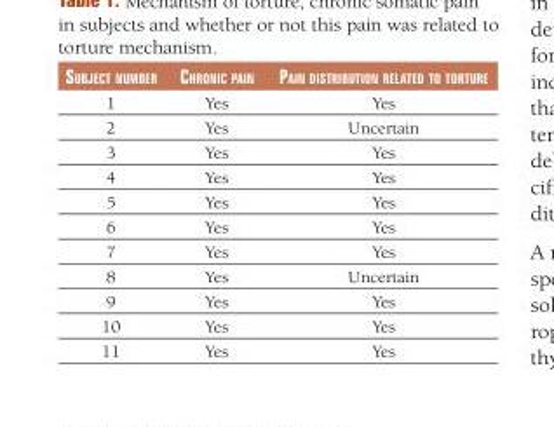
<table><thead><tr><td>Subject number</td><td>chronic pain</td><td>pain diStribution related to torture</td></tr></thead><tbody><tr><td>1</td><td>Yes</td><td>Yes</td></tr><tr><td>2</td><td>Yes</td><td>Uncertain</td></tr><tr><td>3</td><td>Yes</td><td>Yes</td></tr><tr><td>4</td><td>Yes</td><td>Yes</td></tr><tr><td>5</td><td>Yes</td><td>Yes</td></tr><tr><td>6</td><td>Yes</td><td>Yes</td></tr><tr><td>7</td><td>Yes</td><td>Yes</td></tr><tr><td>8</td><td>Yes</td><td>Uncertain</td></tr><tr><td>9</td><td>Yes</td><td>Yes</td></tr><tr><td>10</td><td>Yes</td><td>Yes</td></tr><tr><td>11</td><td>Yes</td><td>Yes</td></tr></tbody></table>